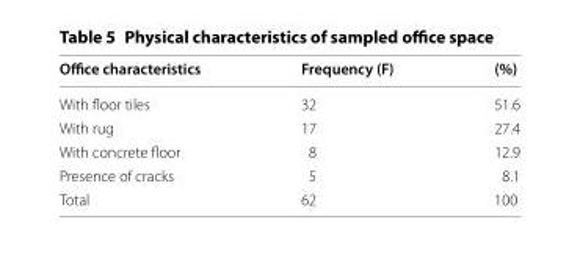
<table><thead><tr><td>Office characteristics</td><td>Frequency (F)</td><td>(%)</td></tr></thead><tbody><tr><td>With floor tiles</td><td>32</td><td>51.6</td></tr><tr><td>With rug</td><td>17</td><td>27.4</td></tr><tr><td>With concrete floor</td><td>8</td><td>12.9</td></tr><tr><td>Presence of cracks</td><td>5</td><td>8.1</td></tr><tr><td>Total</td><td>62</td><td>100</td></tr></tbody></table>